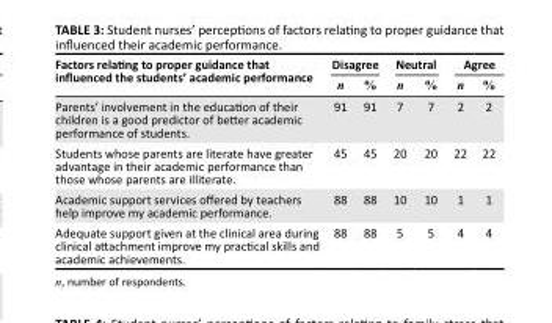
<table><thead><tr><td rowspan="2">Factors relating to proper guidance that influenced the students’ academic performance</td><td colspan="2">Disagree</td><td colspan="2">Neutral</td><td colspan="2">Agree</td></tr><tr><td>n</td><td>%</td><td>n</td><td>%</td><td>n</td><td>%</td></tr></thead><tbody><tr><td>Parents’ involvement in the education of their children is a good predictor of better academic performance of students.</td><td>91</td><td>91</td><td>7</td><td>7</td><td>2</td><td>2</td></tr><tr><td>Students whose parents are literate have greater advantage in their academic performance than those whose parents are illiterate.</td><td>45</td><td>45</td><td>20</td><td>20</td><td>22</td><td>22</td></tr><tr><td>Academic support services offered by teachers help improve my academic performance.</td><td>88</td><td>88</td><td>10</td><td>10</td><td>1</td><td>1</td></tr><tr><td>Adequate support given at the clinical area during clinical attachment improve my practical skills and academic achievements.</td><td>88</td><td>88</td><td>5</td><td>5</td><td>4</td><td>4</td></tr></tbody></table>